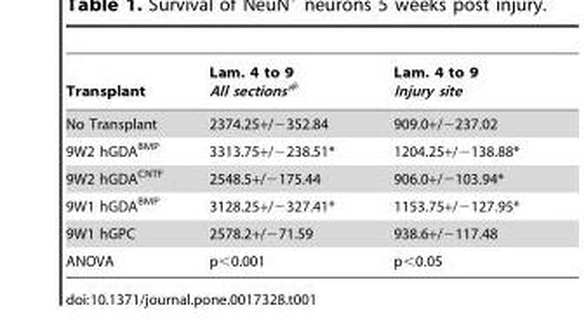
<table><thead><tr><td>Transplant</td><td>Lam. 4 to 9 All sections<sup>#</sup></td><td>Lam. 4 to 9 Injury site</td></tr></thead><tbody><tr><td>No Transplant</td><td>2374.25+/−352.84</td><td>909.0+/−237.02</td></tr><tr><td>9W2 hGDA<sup>BMP</sup></td><td>3313.75+/−238.51*</td><td>1204.25+/−138.88*</td></tr><tr><td>9W2 hGDA<sup>CNTF</sup></td><td>2548.5+/−175.44</td><td>906.0+/−103.94*</td></tr><tr><td>9W1 hGDA<sup>BMP</sup></td><td>3128.25+/−327.41*</td><td>1153.75+/−127.95*</td></tr><tr><td>9W1 hGPC</td><td>2578.2+/−71.59</td><td>938.6+/−117.48</td></tr><tr><td>ANOVA</td><td>p&lt;0.001</td><td>p&lt;0.05</td></tr></tbody></table>